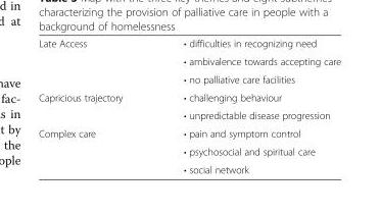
<table><tbody><tr><td rowspan="3">Late Access</td><td>• difficulties in recognizing need</td></tr><tr><td>• ambivalence towards accepting care</td></tr><tr><td>• no palliative care facilities</td></tr><tr><td rowspan="2">Capricious trajectory</td><td>• challenging behaviour</td></tr><tr><td>• unpredictable disease progression</td></tr><tr><td rowspan="3">Complex care</td><td>• pain and symptom control</td></tr><tr><td>• psychosocial and spiritual care</td></tr><tr><td>• social network</td></tr></tbody></table>